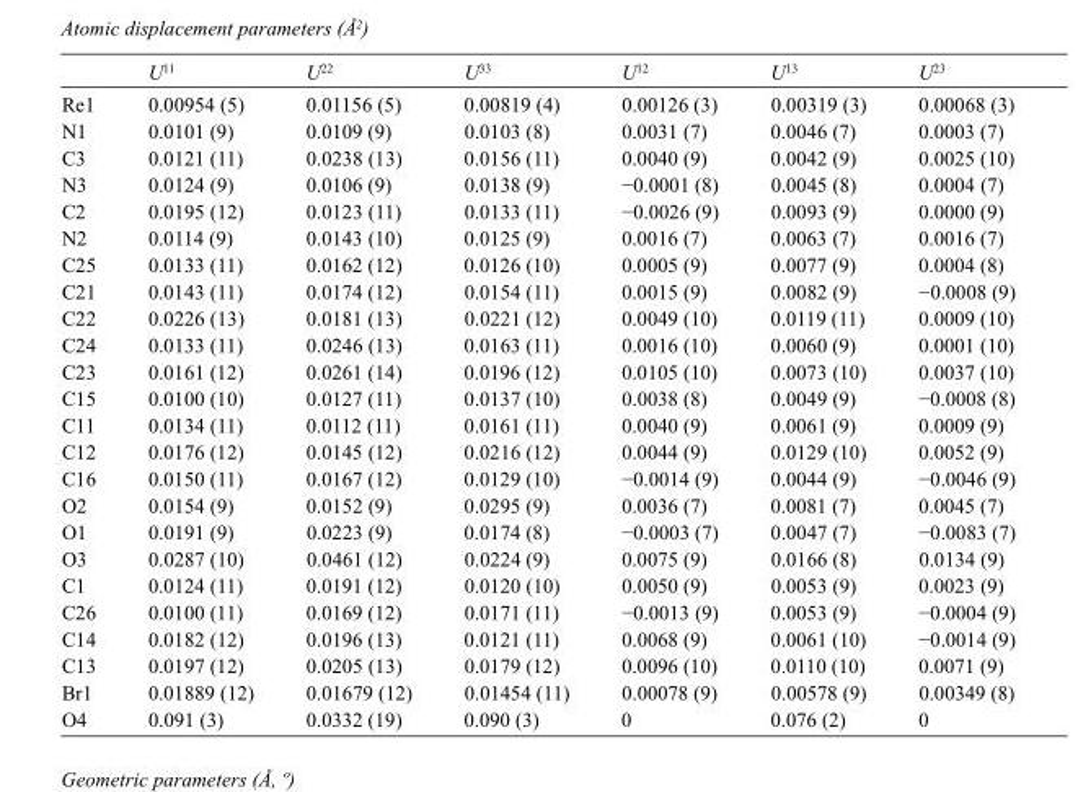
<table><thead><tr><td></td><td>U<sup>11</sup></td><td>U<sup>22</sup></td><td>U<sup>33</sup></td><td>U<sup>12</sup></td><td>U<sup>13</sup></td><td>U<sup>23</sup></td></tr></thead><tbody><tr><td>Re1</td><td>0.00954 (5)</td><td>0.01156 (5)</td><td>0.00819 (4)</td><td>0.00126 (3)</td><td>0.00319 (3)</td><td>0.00068 (3)</td></tr><tr><td>N1</td><td>0.0101 (9)</td><td>0.0109 (9)</td><td>0.0103 (8)</td><td>0.0031 (7)</td><td>0.0046 (7)</td><td>0.0003 (7)</td></tr><tr><td>C3</td><td>0.0121 (11)</td><td>0.0238 (13)</td><td>0.0156 (11)</td><td>0.0040 (9)</td><td>0.0042 (9)</td><td>0.0025 (10)</td></tr><tr><td>N3</td><td>0.0124 (9)</td><td>0.0106 (9)</td><td>0.0138 (9)</td><td>−0.0001 (8)</td><td>0.0045 (8)</td><td>0.0004 (7)</td></tr><tr><td>C2</td><td>0.0195 (12)</td><td>0.0123 (11)</td><td>0.0133 (11)</td><td>−0.0026 (9)</td><td>0.0093 (9)</td><td>0.0000 (9)</td></tr><tr><td>N2</td><td>0.0114 (9)</td><td>0.0143 (10)</td><td>0.0125 (9)</td><td>0.0016 (7)</td><td>0.0063 (7)</td><td>0.0016 (7)</td></tr><tr><td>C25</td><td>0.0133 (11)</td><td>0.0162 (12)</td><td>0.0126 (10)</td><td>0.0005 (9)</td><td>0.0077 (9)</td><td>0.0004 (8)</td></tr><tr><td>C21</td><td>0.0143 (11)</td><td>0.0174 (12)</td><td>0.0154 (11)</td><td>0.0015 (9)</td><td>0.0082 (9)</td><td>−0.0008 (9)</td></tr><tr><td>C22</td><td>0.0226 (13)</td><td>0.0181 (13)</td><td>0.0221 (12)</td><td>0.0049 (10)</td><td>0.0119 (11)</td><td>0.0009 (10)</td></tr><tr><td>C24</td><td>0.0133 (11)</td><td>0.0246 (13)</td><td>0.0163 (11)</td><td>0.0016 (10)</td><td>0.0060 (9)</td><td>0.0001 (10)</td></tr><tr><td>C23</td><td>0.0161 (12)</td><td>0.0261 (14)</td><td>0.0196 (12)</td><td>0.0105 (10)</td><td>0.0073 (10)</td><td>0.0037 (10)</td></tr><tr><td>C15</td><td>0.0100 (10)</td><td>0.0127 (11)</td><td>0.0137 (10)</td><td>0.0038 (8)</td><td>0.0049 (9)</td><td>−0.0008 (8)</td></tr><tr><td>C11</td><td>0.0134 (11)</td><td>0.0112 (11)</td><td>0.0161 (11)</td><td>0.0040 (9)</td><td>0.0061 (9)</td><td>0.0009 (9)</td></tr><tr><td>C12</td><td>0.0176 (12)</td><td>0.0145 (12)</td><td>0.0216 (12)</td><td>0.0044 (9)</td><td>0.0129 (10)</td><td>0.0052 (9)</td></tr><tr><td>C16</td><td>0.0150 (11)</td><td>0.0167 (12)</td><td>0.0129 (10)</td><td>−0.0014 (9)</td><td>0.0044 (9)</td><td>−0.0046 (9)</td></tr><tr><td>O2</td><td>0.0154 (9)</td><td>0.0152 (9)</td><td>0.0295 (9)</td><td>0.0036 (7)</td><td>0.0081 (7)</td><td>0.0045 (7)</td></tr><tr><td>O1</td><td>0.0191 (9)</td><td>0.0223 (9)</td><td>0.0174 (8)</td><td>−0.0003 (7)</td><td>0.0047 (7)</td><td>−0.0083 (7)</td></tr><tr><td>O3</td><td>0.0287 (10)</td><td>0.0461 (12)</td><td>0.0224 (9)</td><td>0.0075 (9)</td><td>0.0166 (8)</td><td>0.0134 (9)</td></tr><tr><td>C1</td><td>0.0124 (11)</td><td>0.0191 (12)</td><td>0.0120 (10)</td><td>0.0050 (9)</td><td>0.0053 (9)</td><td>0.0023 (9)</td></tr><tr><td>C26</td><td>0.0100 (11)</td><td>0.0169 (12)</td><td>0.0171 (11)</td><td>−0.0013 (9)</td><td>0.0053 (9)</td><td>−0.0004 (9)</td></tr><tr><td>C14</td><td>0.0182 (12)</td><td>0.0196 (13)</td><td>0.0121 (11)</td><td>0.0068 (9)</td><td>0.0061 (10)</td><td>−0.0014 (9)</td></tr><tr><td>C13</td><td>0.0197 (12)</td><td>0.0205 (13)</td><td>0.0179 (12)</td><td>0.0096 (10)</td><td>0.0110 (10)</td><td>0.0071 (9)</td></tr><tr><td>Br1</td><td>0.01889 (12)</td><td>0.01679 (12)</td><td>0.01454 (11)</td><td>0.00078 (9)</td><td>0.00578 (9)</td><td>0.00349 (8)</td></tr><tr><td>O4</td><td>0.091 (3)</td><td>0.0332 (19)</td><td>0.090 (3)</td><td>0</td><td>0.076 (2)</td><td>0</td></tr></tbody></table>